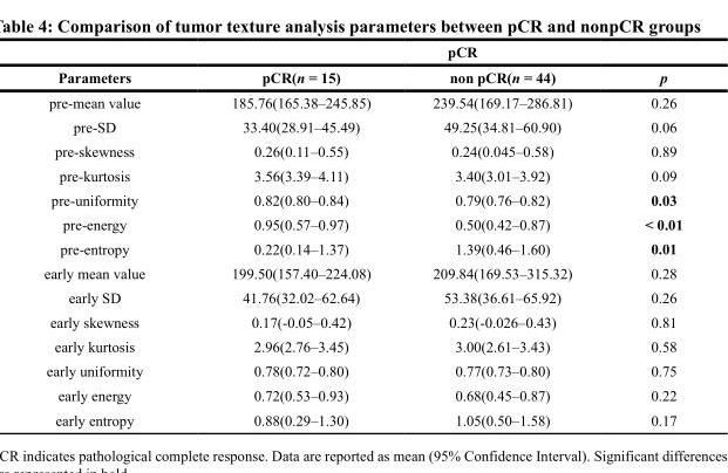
<table><thead><tr><td rowspan="2">Parameters</td><td colspan="3">pCR</td></tr><tr><td>pCR(n = 15)</td><td>non pCR(n = 44)</td><td>p</td></tr></thead><tbody><tr><td>pre-mean value</td><td>185.76(165.38–245.85)</td><td>239.54(169.17–286.81)</td><td>0.26</td></tr><tr><td>pre-SD</td><td>33.40(28.91–45.49)</td><td>49.25(34.81–60.90)</td><td>0.06</td></tr><tr><td>pre-skewness</td><td>0.26(0.11–0.55)</td><td>0.24(0.045–0.58)</td><td>0.89</td></tr><tr><td>pre-kurtosis</td><td>3.56(3.39–4.11)</td><td>3.40(3.01–3.92)</td><td>0.09</td></tr><tr><td>pre-uniformity</td><td>0.82(0.80–0.84)</td><td>0.79(0.76–0.82)</td><td>0.03</td></tr><tr><td>pre-energy</td><td>0.95(0.57–0.97)</td><td>0.50(0.42–0.87)</td><td>&lt; 0.01</td></tr><tr><td>pre-entropy</td><td>0.22(0.14–1.37)</td><td>1.39(0.46–1.60)</td><td>0.01</td></tr><tr><td>early mean value</td><td>199.50(157.40–224.08)</td><td>209.84(169.53–315.32)</td><td>0.28</td></tr><tr><td>early SD</td><td>41.76(32.02–62.64)</td><td>53.38(36.61–65.92)</td><td>0.26</td></tr><tr><td>early skewness</td><td>0.17(-0.05–0.42)</td><td>0.23(-0.026–0.43)</td><td>0.81</td></tr><tr><td>early kurtosis</td><td>2.96(2.76–3.45)</td><td>3.00(2.61–3.43)</td><td>0.58</td></tr><tr><td>early uniformity</td><td>0.78(0.72–0.80)</td><td>0.77(0.73–0.80)</td><td>0.75</td></tr><tr><td>early energy</td><td>0.72(0.53–0.93)</td><td>0.68(0.45–0.87)</td><td>0.22</td></tr><tr><td>early entropy</td><td>0.88(0.29–1.30)</td><td>1.05(0.50–1.58)</td><td>0.17</td></tr></tbody></table>